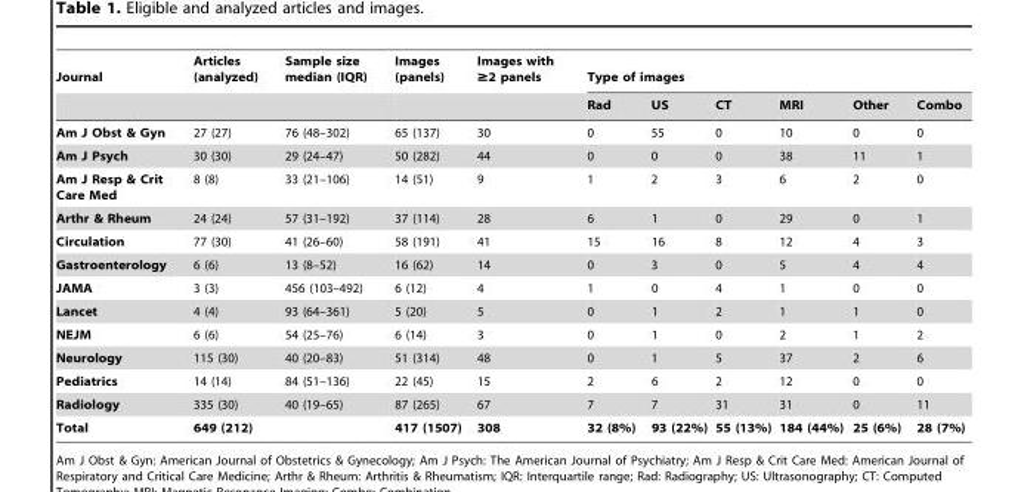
<table><thead><tr><td rowspan="2">Journal</td><td rowspan="2">Articles (analyzed)</td><td rowspan="2">Sample size median (IQR)</td><td rowspan="2">Images (panels)</td><td rowspan="2">Images with ≥2 panels</td><td colspan="6">Type of images</td></tr><tr><td>Rad</td><td>US</td><td>CT</td><td>MRI</td><td>Other</td><td>Combo</td></tr></thead><tbody><tr><td>Am J Obst &amp; Gyn</td><td>27 (27)</td><td>76 (48–302)</td><td>65 (137)</td><td>30</td><td>0</td><td>55</td><td>0</td><td>10</td><td>0</td><td>0</td></tr><tr><td>Am J Psych</td><td>30 (30)</td><td>29 (24–47)</td><td>50 (282)</td><td>44</td><td>0</td><td>0</td><td>0</td><td>38</td><td>11</td><td>1</td></tr><tr><td>Am J Resp &amp; Crit Care Med</td><td>8 (8)</td><td>33 (21–106)</td><td>14 (51)</td><td>9</td><td>1</td><td>2</td><td>3</td><td>6</td><td>2</td><td>0</td></tr><tr><td>Arthr &amp; Rheum</td><td>24 (24)</td><td>57 (31–192)</td><td>37 (114)</td><td>28</td><td>6</td><td>1</td><td>0</td><td>29</td><td>0</td><td>1</td></tr><tr><td>Circulation</td><td>77 (30)</td><td>41 (26–60)</td><td>58 (191)</td><td>41</td><td>15</td><td>16</td><td>8</td><td>12</td><td>4</td><td>3</td></tr><tr><td>Gastroenterology</td><td>6 (6)</td><td>13 (8–52)</td><td>16 (62)</td><td>14</td><td>0</td><td>3</td><td>0</td><td>5</td><td>4</td><td>4</td></tr><tr><td>JAMA</td><td>3 (3)</td><td>456 (103–492)</td><td>6 (12)</td><td>4</td><td>1</td><td>0</td><td>4</td><td>1</td><td>0</td><td>0</td></tr><tr><td>Lancet</td><td>4 (4)</td><td>93 (64–361)</td><td>5 (20)</td><td>5</td><td>0</td><td>1</td><td>2</td><td>1</td><td>1</td><td>0</td></tr><tr><td>NEJM</td><td>6 (6)</td><td>54 (25–76)</td><td>6 (14)</td><td>3</td><td>0</td><td>1</td><td>0</td><td>2</td><td>1</td><td>2</td></tr><tr><td>Neurology</td><td>115 (30)</td><td>40 (20–83)</td><td>51 (314)</td><td>48</td><td>0</td><td>1</td><td>5</td><td>37</td><td>2</td><td>6</td></tr><tr><td>Pediatrics</td><td>14 (14)</td><td>84 (51–136)</td><td>22 (45)</td><td>15</td><td>2</td><td>6</td><td>2</td><td>12</td><td>0</td><td>0</td></tr><tr><td>Radiology</td><td>335 (30)</td><td>40 (19–65)</td><td>87 (265)</td><td>67</td><td>7</td><td>7</td><td>31</td><td>31</td><td>0</td><td>11</td></tr><tr><td>Total</td><td>649 (212)</td><td></td><td>417 (1507)</td><td>308</td><td>32 (8%)</td><td>93 (22%)</td><td>55 (13%)</td><td>184 (44%)</td><td>25 (6%)</td><td>28 (7%)</td></tr></tbody></table>